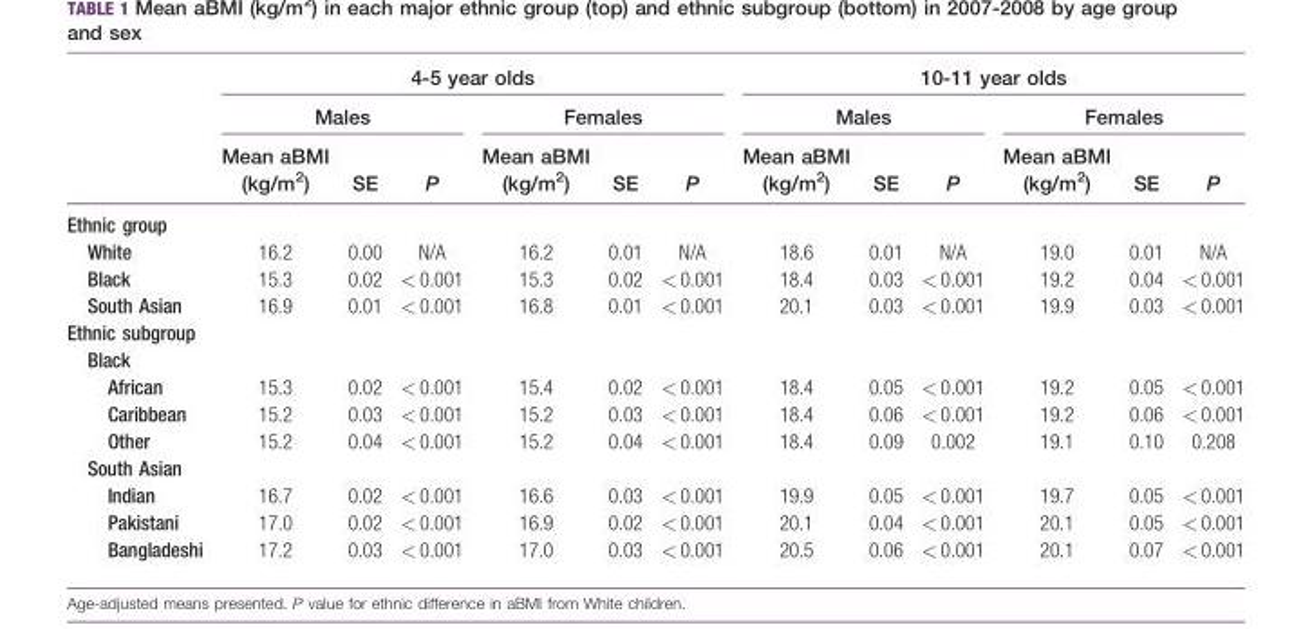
<table><thead><tr><td rowspan="3"></td><td colspan="6">4-5 year olds</td><td colspan="6">10-11 year olds</td></tr><tr><td colspan="3">Males</td><td colspan="3">Females</td><td colspan="3">Males</td><td colspan="3">Females</td></tr><tr><td>Mean aBMI (kg/m<sup>2</sup>)</td><td>SE</td><td>P</td><td>Mean aBMI (kg/m<sup>2</sup>)</td><td>SE</td><td>P</td><td>Mean aBMI (kg/m<sup>2</sup>)</td><td>SE</td><td>P</td><td>Mean aBMI (kg/m<sup>2</sup>)</td><td>SE</td><td>P</td></tr></thead><tbody><tr><td colspan="13">Ethnic group</td></tr><tr><td>White</td><td>16.2</td><td>0.00</td><td>N/A</td><td>16.2</td><td>0.01</td><td>N/A</td><td>18.6</td><td>0.01</td><td>N/A</td><td>19.0</td><td>0.01</td><td>N/A</td></tr><tr><td>Black</td><td>15.3</td><td>0.02</td><td>&lt; 0.001</td><td>15.3</td><td>0.02</td><td>&lt; 0.001</td><td>18.4</td><td>0.03</td><td>&lt; 0.001</td><td>19.2</td><td>0.04</td><td>&lt; 0.001</td></tr><tr><td>South Asian</td><td>16.9</td><td>0.01</td><td>&lt; 0.001</td><td>16.8</td><td>0.01</td><td>&lt; 0.001</td><td>20.1</td><td>0.03</td><td>&lt; 0.001</td><td>19.9</td><td>0.03</td><td>&lt; 0.001</td></tr><tr><td colspan="13">Ethnic subgroup</td></tr><tr><td colspan="13">Black</td></tr><tr><td>African</td><td>15.3</td><td>0.02</td><td>&lt; 0.001</td><td>15.4</td><td>0.02</td><td>&lt; 0.001</td><td>18.4</td><td>0.05</td><td>&lt; 0.001</td><td>19.2</td><td>0.05</td><td>&lt; 0.001</td></tr><tr><td>Caribbean</td><td>15.2</td><td>0.03</td><td>&lt; 0.001</td><td>15.2</td><td>0.03</td><td>&lt; 0.001</td><td>18.4</td><td>0.06</td><td>&lt; 0.001</td><td>19.2</td><td>0.06</td><td>&lt; 0.001</td></tr><tr><td>Other</td><td>15.2</td><td>0.04</td><td>&lt; 0.001</td><td>15.2</td><td>0.04</td><td>&lt; 0.001</td><td>18.4</td><td>0.09</td><td>0.002</td><td>19.1</td><td>0.10</td><td>0.208</td></tr><tr><td colspan="13">South Asian</td></tr><tr><td>Indian</td><td>16.7</td><td>0.02</td><td>&lt; 0.001</td><td>16.6</td><td>0.03</td><td>&lt; 0.001</td><td>19.9</td><td>0.05</td><td>&lt; 0.001</td><td>19.7</td><td>0.05</td><td>&lt; 0.001</td></tr><tr><td>Pakistani</td><td>17.0</td><td>0.02</td><td>&lt; 0.001</td><td>16.9</td><td>0.02</td><td>&lt; 0.001</td><td>20.1</td><td>0.04</td><td>&lt; 0.001</td><td>20.1</td><td>0.05</td><td>&lt; 0.001</td></tr><tr><td>Bangladeshi</td><td>17.2</td><td>0.03</td><td>&lt; 0.001</td><td>17.0</td><td>0.03</td><td>&lt; 0.001</td><td>20.5</td><td>0.06</td><td>&lt; 0.001</td><td>20.1</td><td>0.07</td><td>&lt; 0.001</td></tr></tbody></table>